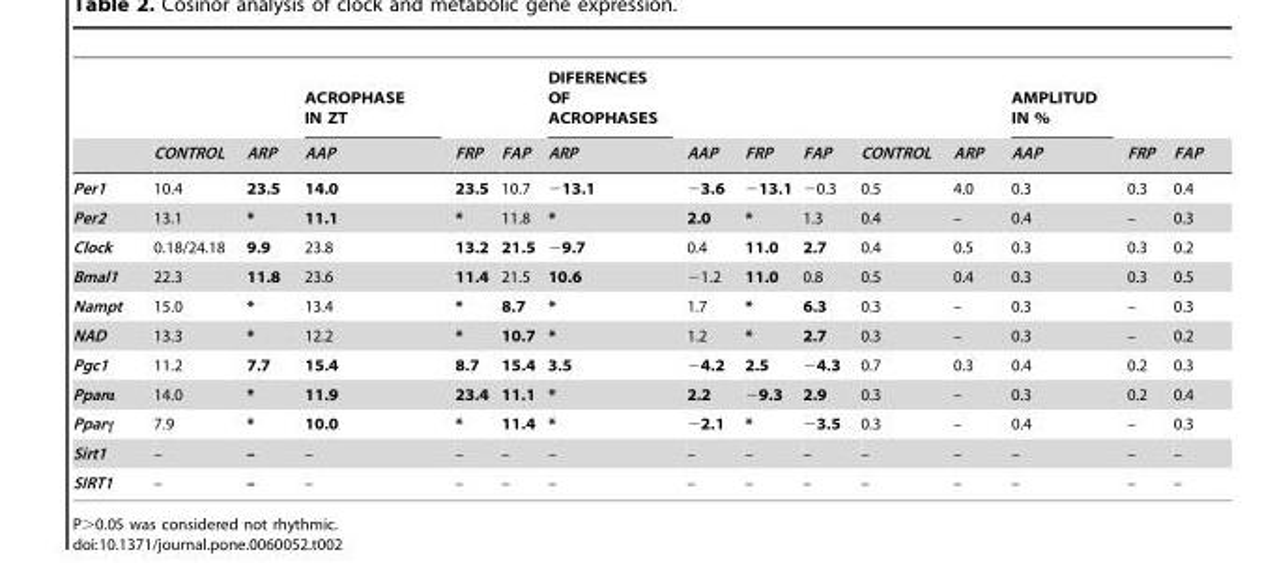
<table><thead><tr><td rowspan="2"></td><td rowspan="2">CONTROL</td><td rowspan="2">ARP</td><td rowspan="2">ACROPHASE IN ZT AAP</td><td rowspan="2">FRP</td><td rowspan="2">FAP</td><td rowspan="2">DIFERENCES OF ACROPHASES ARP</td><td rowspan="2">AAP</td><td rowspan="2">FRP</td><td rowspan="2">FAP</td><td rowspan="2">CONTROL</td><td rowspan="2">ARP</td><td rowspan="2">AMPLITUD IN % AAP</td><td rowspan="2">FRP</td><td rowspan="2">FAP</td></tr><tr></tr></thead><tbody><tr><td>Per1</td><td>10.4</td><td>23.5</td><td>14.0</td><td>23.5</td><td>10.7</td><td>−13.1</td><td>−3.6</td><td>−13.1</td><td>−0.3</td><td>0.5</td><td>4.0</td><td>0.3</td><td>0.3</td><td>0.4</td></tr><tr><td>Per2</td><td>13.1</td><td>*</td><td>11.1</td><td>*</td><td>11.8</td><td>*</td><td>2.0</td><td>*</td><td>1.3</td><td>0.4</td><td>–</td><td>0.4</td><td>–</td><td>0.3</td></tr><tr><td>Clock</td><td>0.18/24.18</td><td>9.9</td><td>23.8</td><td>13.2</td><td>21.5</td><td>−9.7</td><td>0.4</td><td>11.0</td><td>2.7</td><td>0.4</td><td>0.5</td><td>0.3</td><td>0.3</td><td>0.2</td></tr><tr><td>Bmal1</td><td>22.3</td><td>11.8</td><td>23.6</td><td>11.4</td><td>21.5</td><td>10.6</td><td>−1.2</td><td>11.0</td><td>0.8</td><td>0.5</td><td>0.4</td><td>0.3</td><td>0.3</td><td>0.5</td></tr><tr><td>Nampt</td><td>15.0</td><td>*</td><td>13.4</td><td>*</td><td>8.7</td><td>*</td><td>1.7</td><td>*</td><td>6.3</td><td>0.3</td><td>–</td><td>0.3</td><td>–</td><td>0.3</td></tr><tr><td>NAD</td><td>13.3</td><td>*</td><td>12.2</td><td>*</td><td>10.7</td><td>*</td><td>1.2</td><td>*</td><td>2.7</td><td>0.3</td><td>–</td><td>0.3</td><td>–</td><td>0.2</td></tr><tr><td>Pgc1</td><td>11.2</td><td>7.7</td><td>15.4</td><td>8.7</td><td>15.4</td><td>3.5</td><td>−4.2</td><td>2.5</td><td>−4.3</td><td>0.7</td><td>0.3</td><td>0.4</td><td>0.2</td><td>0.3</td></tr><tr><td>Pparα</td><td>14.0</td><td>*</td><td>11.9</td><td>23.4</td><td>11.1</td><td>*</td><td>2.2</td><td>−9.3</td><td>2.9</td><td>0.3</td><td>–</td><td>0.3</td><td>0.2</td><td>0.4</td></tr><tr><td>Pparγ</td><td>7.9</td><td>*</td><td>10.0</td><td>*</td><td>11.4</td><td>*</td><td>−2.1</td><td>*</td><td>−3.5</td><td>0.3</td><td>–</td><td>0.4</td><td>–</td><td>0.3</td></tr><tr><td>Sirt1</td><td>–</td><td>–</td><td>–</td><td>–</td><td>–</td><td>–</td><td>–</td><td>–</td><td>–</td><td>–</td><td>–</td><td>–</td><td>–</td><td>–</td></tr><tr><td>SIRT1</td><td>–</td><td>–</td><td>–</td><td>–</td><td>–</td><td>–</td><td>–</td><td>–</td><td>–</td><td>–</td><td>–</td><td>–</td><td>–</td><td>–</td></tr></tbody></table>